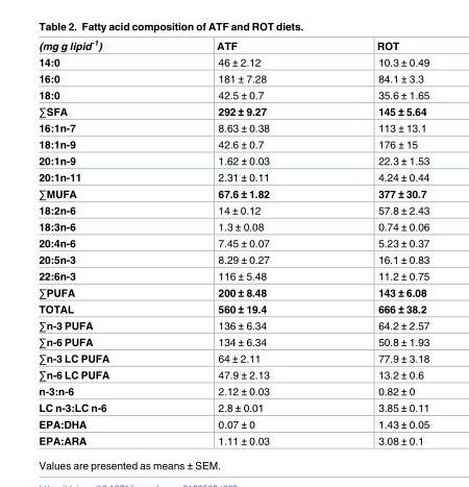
<table><thead><tr><td>(mg g lipid<sup>-1</sup>)</td><td>ATF</td><td>ROT</td></tr></thead><tbody><tr><td>14:0</td><td>46 ± 2.12</td><td>10.3 ± 0.49</td></tr><tr><td>16:0</td><td>181 ± 7.28</td><td>84.1 ± 3.3</td></tr><tr><td>18:0</td><td>42.5 ± 0.7</td><td>35.6 ± 1.65</td></tr><tr><td>∑SFA</td><td>292 ± 9.27</td><td>145 ± 5.64</td></tr><tr><td>16:1n-7</td><td>8.63 ± 0.38</td><td>113 ± 13.1</td></tr><tr><td>18:1n-9</td><td>42.6 ± 0.7</td><td>176 ± 15</td></tr><tr><td>20:1n-9</td><td>1.62 ± 0.03</td><td>22.3 ± 1.53</td></tr><tr><td>20:1n-11</td><td>2.31 ± 0.11</td><td>4.24 ± 0.44</td></tr><tr><td>∑MUFA</td><td>67.6 ± 1.82</td><td>377 ± 30.7</td></tr><tr><td>18:2n-6</td><td>14 ± 0.12</td><td>57.8 ± 2.43</td></tr><tr><td>18:3n-6</td><td>1.3 ± 0.08</td><td>0.74 ± 0.06</td></tr><tr><td>20:4n-6</td><td>7.45 ± 0.07</td><td>5.23 ± 0.37</td></tr><tr><td>20:5n-3</td><td>8.29 ± 0.27</td><td>16.1 ± 0.83</td></tr><tr><td>22:6n-3</td><td>116 ± 5.48</td><td>11.2 ± 0.75</td></tr><tr><td>∑PUFA</td><td>200 ± 8.48</td><td>143 ± 6.08</td></tr><tr><td>TOTAL</td><td>560 ± 19.4</td><td>666 ± 38.2</td></tr><tr><td>∑n-3 PUFA</td><td>136 ± 6.34</td><td>64.2 ± 2.57</td></tr><tr><td>∑n-6 PUFA</td><td>134 ± 6.34</td><td>50.8 ± 1.93</td></tr><tr><td>∑n-3 LC PUFA</td><td>64 ± 2.11</td><td>77.9 ± 3.18</td></tr><tr><td>∑n-6 LC PUFA</td><td>47.9 ± 2.13</td><td>13.2 ± 0.6</td></tr><tr><td>n-3:n-6</td><td>2.12 ± 0.03</td><td>0.82 ± 0</td></tr><tr><td>LC n-3:LC n-6</td><td>2.8 ± 0.01</td><td>3.85 ± 0.11</td></tr><tr><td>EPA:DHA</td><td>0.07 ± 0</td><td>1.43 ± 0.05</td></tr><tr><td>EPA:ARA</td><td>1.11 ± 0.03</td><td>3.08 ± 0.1</td></tr></tbody></table>